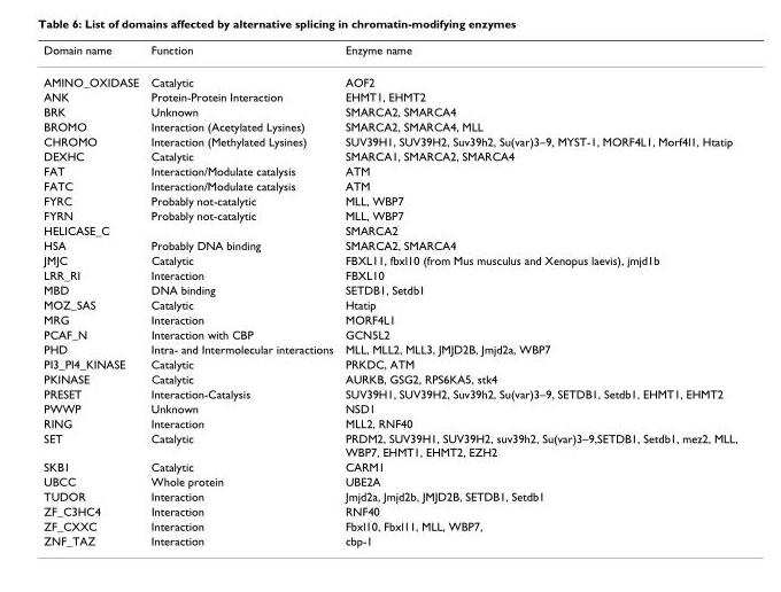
<table><thead><tr><td>Domain name</td><td>Function</td><td>Enzyme name</td></tr></thead><tbody><tr><td>AMINO_OXIDASE</td><td>Catalytic</td><td>AOF2</td></tr><tr><td>ANK</td><td>Protein-Protein Interaction</td><td>EHMT1, EHMT2</td></tr><tr><td>BRK</td><td>Unknown</td><td>SMARCA2, SMARCA4</td></tr><tr><td>BROMO</td><td>Interaction (Acetylated Lysines)</td><td>SMARCA2, SMARCA4, MLL</td></tr><tr><td>CHROMO</td><td>Interaction (Methylated Lysines)</td><td>SUV39H1, SUV39H2, Suv39h2, Su(var)3–9, MYST-1, MORF4L1, Morf4l1, Htatip</td></tr><tr><td>DEXHC</td><td>Catalytic</td><td>SMARCA1, SMARCA2, SMARCA4</td></tr><tr><td>FAT</td><td>Interaction/Modulate catalysis</td><td>ATM</td></tr><tr><td>FATC</td><td>Interaction/Modulate catalysis</td><td>ATM</td></tr><tr><td>FYRC</td><td>Probably not-catalytic</td><td>MLL, WBP7</td></tr><tr><td>FYRN</td><td>Probably not-catalytic</td><td>MLL, WBP7</td></tr><tr><td>HELICASE_C</td><td></td><td>SMARCA2</td></tr><tr><td>HSA</td><td>Probably DNA binding</td><td>SMARCA2, SMARCA4</td></tr><tr><td>JMJC</td><td>Catalytic</td><td>FBXL11, fbxl10 (from Mus musculus and Xenopus laevis), jmjd1b</td></tr><tr><td>LRR_RI</td><td>Interaction</td><td>FBXL10</td></tr><tr><td>MBD</td><td>DNA binding</td><td>SETDB1, Setdb1</td></tr><tr><td>MOZ_SAS</td><td>Catalytic</td><td>Htatip</td></tr><tr><td>MRG</td><td>Interaction</td><td>MORF4L1</td></tr><tr><td>PCAF_N</td><td>Interaction with CBP</td><td>GCN5L2</td></tr><tr><td>PHD</td><td>Intra- and Intermolecular interactions</td><td>MLL, MLL2, MLL3, JMJD2B, Jmjd2a, WBP7</td></tr><tr><td>PI3_PI4_KINASE</td><td>Catalytic</td><td>PRKDC, ATM</td></tr><tr><td>PKINASE</td><td>Catalytic</td><td>AURKB, GSG2, RPS6KA5, stk4</td></tr><tr><td>PRESET</td><td>Interaction-Catalysis</td><td>SUV39H1, SUV39H2, Suv39h2, Su(var)3–9, SETDB1, Setdb1, EHMT1, EHMT2</td></tr><tr><td>PWWP</td><td>Unknown</td><td>NSD1</td></tr><tr><td>RING</td><td>Interaction</td><td>MLL2, RNF40</td></tr><tr><td>SET</td><td>Catalytic</td><td>PRDM2, SUV39H1, SUV39H2, suv39h2, Su(var)3–9,SETDB1, Setdb1, mez2, MLL, WBP7, EHMT1, EHMT2, EZH2</td></tr><tr><td>SKB1</td><td>Catalytic</td><td>CARM1</td></tr><tr><td>UBCC</td><td>Whole protein</td><td>UBE2A</td></tr><tr><td>TUDOR</td><td>Interaction</td><td>Jmjd2a, Jmjd2b, JMJD2B, SETDB1, Setdb1</td></tr><tr><td>ZF_C3HC4</td><td>Interaction</td><td>RNF40</td></tr><tr><td>ZF_CXXC</td><td>Interaction</td><td>Fbxl10, Fbxl11, MLL, WBP7,</td></tr><tr><td>ZNF_TAZ</td><td>Interaction</td><td>cbp-1</td></tr></tbody></table>